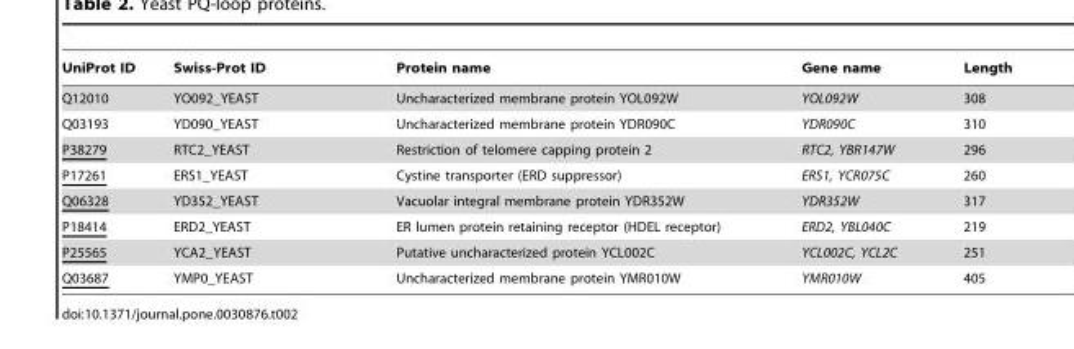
<table><thead><tr><td>UniProt ID</td><td>Swiss-Prot ID</td><td>Protein name</td><td>Gene name</td><td>Length</td></tr></thead><tbody><tr><td>Q12010</td><td>YO092_YEAST</td><td>Uncharacterized membrane protein YOL092W</td><td>YOL092W</td><td>308</td></tr><tr><td>Q03193</td><td>YD090_YEAST</td><td>Uncharacterized membrane protein YDR090C</td><td>YDR090C</td><td>310</td></tr><tr><td>P38279</td><td>RTC2_YEAST</td><td>Restriction of telomere capping protein 2</td><td>RTC2, YBR147W</td><td>296</td></tr><tr><td>P17261</td><td>ERS1_YEAST</td><td>Cystine transporter (ERD suppressor)</td><td>ERS1, YCR075C</td><td>260</td></tr><tr><td>Q06328</td><td>YD352_YEAST</td><td>Vacuolar integral membrane protein YDR352W</td><td>YDR352W</td><td>317</td></tr><tr><td>P18414</td><td>ERD2_YEAST</td><td>ER lumen protein retaining receptor (HDEL receptor)</td><td>ERD2, YBL040C</td><td>219</td></tr><tr><td>P25565</td><td>YCA2_YEAST</td><td>Putative uncharacterized protein YCL002C</td><td>YCL002C, YCL2C</td><td>251</td></tr><tr><td>Q03687</td><td>YMP0_YEAST</td><td>Uncharacterized membrane protein YMR010W</td><td>YMR010W</td><td>405</td></tr></tbody></table>